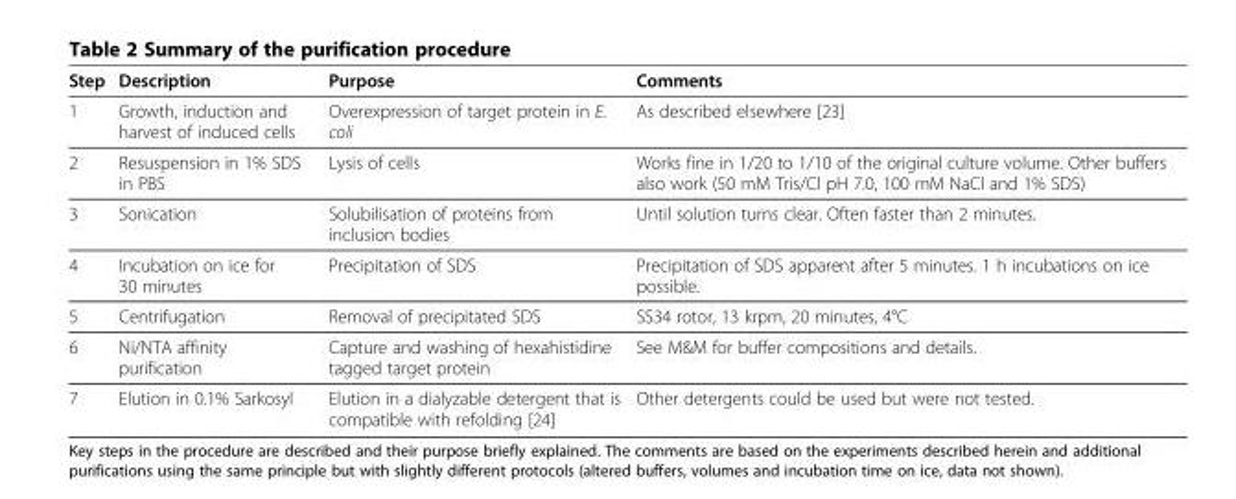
<table><thead><tr><td>Step</td><td>Description</td><td>Purpose</td><td>Comments</td></tr></thead><tbody><tr><td>1</td><td>Growth, induction and harvest of induced cells</td><td>Overexpression of target protein in E. coli</td><td>As described elsewhere [23]</td></tr><tr><td>2</td><td>Resuspension in 1% SDS in PBS</td><td>Lysis of cells</td><td>Works fine in 1/20 to 1/10 of the original culture volume. Other buffers also work (50 mM Tris/Cl pH 7.0, 100 mM NaCl and 1% SDS)</td></tr><tr><td>3</td><td>Sonication</td><td>Solubilisation of proteins from inclusion bodies</td><td>Until solution turns clear. Often faster than 2 minutes.</td></tr><tr><td>4</td><td>Incubation on ice for 30 minutes</td><td>Precipitation of SDS</td><td>Precipitation of SDS apparent after 5 minutes. 1 h incubations on ice possible.</td></tr><tr><td>5</td><td>Centrifugation</td><td>Removal of precipitated SDS</td><td>SS34 rotor, 13 krpm, 20 minutes, 4°C</td></tr><tr><td>6</td><td>Ni/NTA affinity purification</td><td>Capture and washing of hexahistidine tagged target protein</td><td>See M&amp;M for buffer compositions and details.</td></tr><tr><td>7</td><td>Elution in 0.1% Sarkosyl</td><td>Elution in a dialyzable detergent that is compatible with refolding [24]</td><td>Other detergents could be used but were not tested.</td></tr></tbody></table>